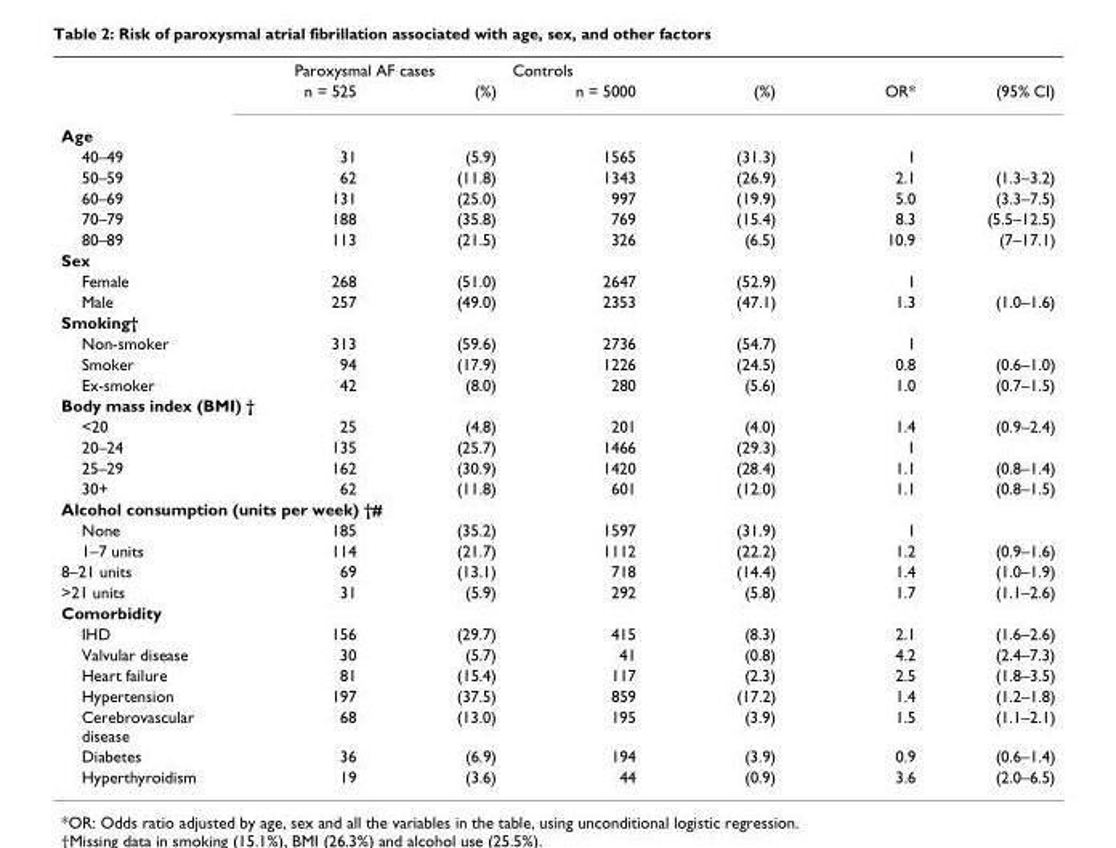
<table><thead><tr><td rowspan="2"></td><td colspan="2">Paroxysmal AF cases</td><td colspan="4">Controls</td></tr><tr><td>n = 525</td><td>(%)</td><td>n = 5000</td><td>(%)</td><td>OR*</td><td>(95% CI)</td></tr></thead><tbody><tr><td colspan="7">Age</td></tr><tr><td>40–49</td><td>31</td><td>(5.9)</td><td>1565</td><td>(31.3)</td><td>1</td><td></td></tr><tr><td>50–59</td><td>62</td><td>(11.8)</td><td>1343</td><td>(26.9)</td><td>2.1</td><td>(1.3–3.2)</td></tr><tr><td>60–69</td><td>131</td><td>(25.0)</td><td>997</td><td>(19.9)</td><td>5.0</td><td>(3.3–7.5)</td></tr><tr><td>70–79</td><td>188</td><td>(35.8)</td><td>769</td><td>(15.4)</td><td>8.3</td><td>(5.5–12.5)</td></tr><tr><td>80–89</td><td>113</td><td>(21.5)</td><td>326</td><td>(6.5)</td><td>10.9</td><td>(7–17.1)</td></tr><tr><td colspan="7">Sex</td></tr><tr><td>Female</td><td>268</td><td>(51.0)</td><td>2647</td><td>(52.9)</td><td>1</td><td></td></tr><tr><td>Male</td><td>257</td><td>(49.0)</td><td>2353</td><td>(47.1)</td><td>1.3</td><td>(1.0–1.6)</td></tr><tr><td colspan="7">Smoking†</td></tr><tr><td>Non-smoker</td><td>313</td><td>(59.6)</td><td>2736</td><td>(54.7)</td><td>1</td><td></td></tr><tr><td>Smoker</td><td>94</td><td>(17.9)</td><td>1226</td><td>(24.5)</td><td>0.8</td><td>(0.6–1.0)</td></tr><tr><td>Ex-smoker</td><td>42</td><td>(8.0)</td><td>280</td><td>(5.6)</td><td>1.0</td><td>(0.7–1.5)</td></tr><tr><td colspan="7">Body mass index (BMI) †</td></tr><tr><td>&lt;20</td><td>25</td><td>(4.8)</td><td>201</td><td>(4.0)</td><td>1.4</td><td>(0.9–2.4)</td></tr><tr><td>20–24</td><td>135</td><td>(25.7)</td><td>1466</td><td>(29.3)</td><td>1</td><td></td></tr><tr><td>25–29</td><td>162</td><td>(30.9)</td><td>1420</td><td>(28.4)</td><td>1.1</td><td>(0.8–1.4)</td></tr><tr><td>30+</td><td>62</td><td>(11.8)</td><td>601</td><td>(12.0)</td><td>1.1</td><td>(0.8–1.5)</td></tr><tr><td colspan="7">Alcohol consumption (units per week) †#</td></tr><tr><td>None</td><td>185</td><td>(35.2)</td><td>1597</td><td>(31.9)</td><td>1</td><td></td></tr><tr><td>1–7 units</td><td>114</td><td>(21.7)</td><td>1112</td><td>(22.2)</td><td>1.2</td><td>(0.9–1.6)</td></tr><tr><td>8–21 units</td><td>69</td><td>(13.1)</td><td>718</td><td>(14.4)</td><td>1.4</td><td>(1.0–1.9)</td></tr><tr><td>&gt;21 units</td><td>31</td><td>(5.9)</td><td>292</td><td>(5.8)</td><td>1.7</td><td>(1.1–2.6)</td></tr><tr><td colspan="7">Comorbidity</td></tr><tr><td>IHD</td><td>156</td><td>(29.7)</td><td>415</td><td>(8.3)</td><td>2.1</td><td>(1.6–2.6)</td></tr><tr><td>Valvular disease</td><td>30</td><td>(5.7)</td><td>41</td><td>(0.8)</td><td>4.2</td><td>(2.4–7.3)</td></tr><tr><td>Heart failure</td><td>81</td><td>(15.4)</td><td>117</td><td>(2.3)</td><td>2.5</td><td>(1.8–3.5)</td></tr><tr><td>Hypertension</td><td>197</td><td>(37.5)</td><td>859</td><td>(17.2)</td><td>1.4</td><td>(1.2–1.8)</td></tr><tr><td>Cerebrovascular disease</td><td>68</td><td>(13.0)</td><td>195</td><td>(3.9)</td><td>1.5</td><td>(1.1–2.1)</td></tr><tr><td>Diabetes</td><td>36</td><td>(6.9)</td><td>194</td><td>(3.9)</td><td>0.9</td><td>(0.6–1.4)</td></tr><tr><td>Hyperthyroidism</td><td>19</td><td>(3.6)</td><td>44</td><td>(0.9)</td><td>3.6</td><td>(2.0–6.5)</td></tr></tbody></table>